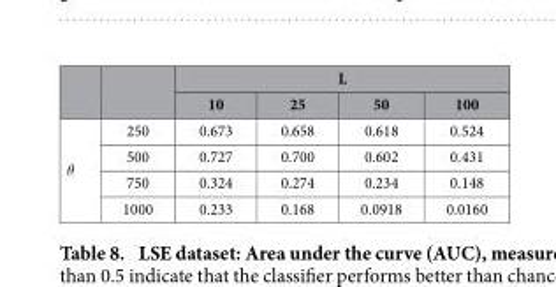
<table><thead><tr><td rowspan="2"></td><td rowspan="2"></td><td colspan="4">L</td></tr><tr><td>10</td><td>25</td><td>50</td><td>100</td></tr></thead><tbody><tr><td rowspan="4">θ</td><td>250</td><td>0.673</td><td>0.658</td><td>0.618</td><td>0.524</td></tr><tr><td>500</td><td>0.727</td><td>0.700</td><td>0.602</td><td>0.431</td></tr><tr><td>750</td><td>0.324</td><td>0.274</td><td>0.234</td><td>0.148</td></tr><tr><td>1000</td><td>0.233</td><td>0.168</td><td>0.0918</td><td>0.0160</td></tr></tbody></table>